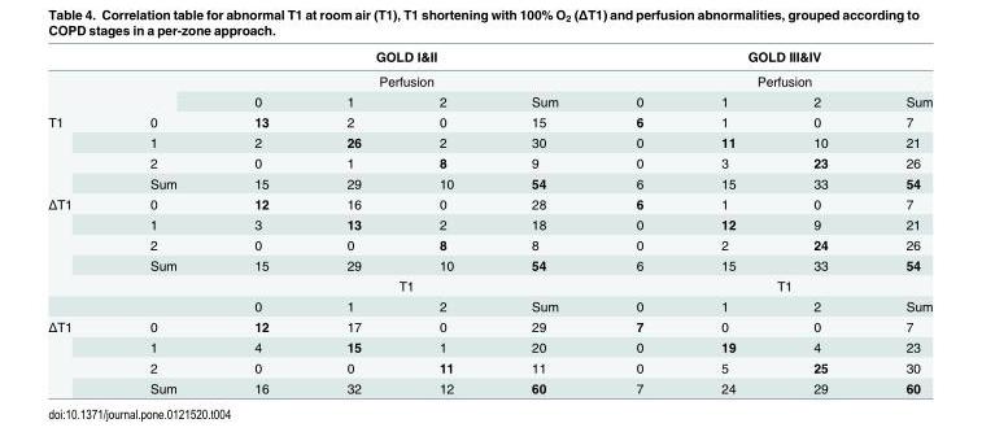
<table><thead><tr><td></td><td></td><td rowspan="2" colspan="4">GOLD I&amp;II Perfusion</td><td rowspan="2" colspan="4">GOLD III&amp;IV Perfusion</td></tr><tr><td rowspan="2" colspan="2"></td></tr><tr><td>0</td><td>1</td><td>2</td><td>Sum</td><td>0</td><td>1</td><td>2</td><td>Sum</td></tr></thead><tbody><tr><td rowspan="4">T1</td><td>0</td><td>13</td><td>2</td><td>0</td><td>15</td><td>6</td><td>1</td><td>0</td><td>7</td></tr><tr><td>1</td><td>2</td><td>26</td><td>2</td><td>30</td><td>0</td><td>11</td><td>10</td><td>21</td></tr><tr><td>2</td><td>0</td><td>1</td><td>8</td><td>9</td><td>0</td><td>3</td><td>23</td><td>26</td></tr><tr><td>Sum</td><td>15</td><td>29</td><td>10</td><td>54</td><td>6</td><td>15</td><td>33</td><td>54</td></tr><tr><td rowspan="6">ΔT1</td><td>0</td><td>12</td><td>16</td><td>0</td><td>28</td><td>6</td><td>1</td><td>0</td><td>7</td></tr><tr><td>1</td><td>3</td><td>13</td><td>2</td><td>18</td><td>0</td><td>12</td><td>9</td><td>21</td></tr><tr><td>2</td><td>0</td><td>0</td><td>8</td><td>8</td><td>0</td><td>2</td><td>24</td><td>26</td></tr><tr><td>Sum</td><td>15</td><td>29</td><td>10</td><td>54</td><td>6</td><td>15</td><td>33</td><td>54</td></tr><tr><td></td><td colspan="4">T1</td><td colspan="4">T1</td></tr><tr><td></td><td>0</td><td>1</td><td>2</td><td>Sum</td><td>0</td><td>1</td><td>2</td><td>Sum</td></tr><tr><td rowspan="4">ΔT1</td><td>0</td><td>12</td><td>17</td><td>0</td><td>29</td><td>7</td><td>0</td><td>0</td><td>7</td></tr><tr><td>1</td><td>4</td><td>15</td><td>1</td><td>20</td><td>0</td><td>19</td><td>4</td><td>23</td></tr><tr><td>2</td><td>0</td><td>0</td><td>11</td><td>11</td><td>0</td><td>5</td><td>25</td><td>30</td></tr><tr><td>Sum</td><td>16</td><td>32</td><td>12</td><td>60</td><td>7</td><td>24</td><td>29</td><td>60</td></tr></tbody></table>